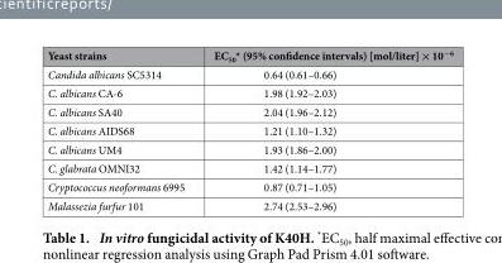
<table><thead><tr><td>Yeast strains</td><td>EC<sub>50</sub>* (95% confidence intervals) [mol/liter] × 10<sup>−6</sup></td></tr></thead><tbody><tr><td>Candida albicans SC5314</td><td>0.64 (0.61–0.66)</td></tr><tr><td>C. albicans CA-6</td><td>1.98 (1.92–2.03)</td></tr><tr><td>C. albicans SA40</td><td>2.04 (1.96–2.12)</td></tr><tr><td>C. albicans AIDS68</td><td>1.21 (1.10–1.32)</td></tr><tr><td>C. albicans UM4</td><td>1.93 (1.86–2.00)</td></tr><tr><td>C. glabrata OMNI32</td><td>1.42 (1.14–1.77)</td></tr><tr><td>Cryptococcus neoformans 6995</td><td>0.87 (0.71–1.05)</td></tr><tr><td>Malassezia furfur 101</td><td>2.74 (2.53–2.96)</td></tr></tbody></table>